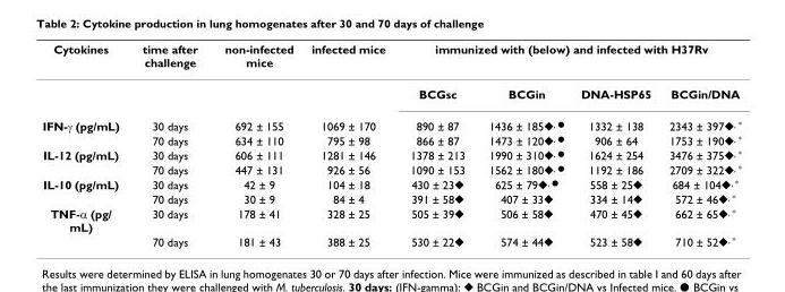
<table><thead><tr><td rowspan="2">Cytokines</td><td rowspan="2">time after challenge</td><td rowspan="2">non-infected mice</td><td rowspan="2">infected mice</td><td colspan="4">immunized with (below) and infected with H37Rv</td></tr><tr><td>BCGsc</td><td>BCGin</td><td>DNA-HSP65</td><td>BCGin/DNA</td></tr></thead><tbody><tr><td rowspan="2">IFN-γ (pg/mL)</td><td>30 days</td><td>692 ± 155</td><td>1069 ± 170</td><td>890 ± 87</td><td>1436 ± 185<sup>◆, ●</sup></td><td>1332 ± 138</td><td>2343 ± 397<sup>◆, *</sup></td></tr><tr><td>70 days</td><td>634 ± 110</td><td>795 ± 98</td><td>866 ± 87</td><td>1473 ± 120<sup>◆, ●</sup></td><td>906 ± 64</td><td>1753 ± 190<sup>◆, *</sup></td></tr><tr><td rowspan="2">IL-12 (pg/mL)</td><td>30 days</td><td>606 ± 111</td><td>1281 ± 146</td><td>1378 ± 213</td><td>1990 ± 310<sup>◆, ●</sup></td><td>1624 ± 254</td><td>3476 ± 375<sup>◆, *</sup></td></tr><tr><td>70 days</td><td>447 ± 131</td><td>926 ± 56</td><td>1090 ± 153</td><td>1562 ± 180<sup>◆, ●</sup></td><td>1192 ± 186</td><td>2709 ± 322<sup>◆, *</sup></td></tr><tr><td rowspan="2">IL-10 (pg/mL)</td><td>30 days</td><td>42 ± 9</td><td>104 ± 18</td><td>430 ± 23<sup>◆</sup></td><td>625 ± 79<sup>◆, ●</sup></td><td>558 ± 25<sup>◆</sup></td><td>684 ± 104<sup>◆, *</sup></td></tr><tr><td>70 days</td><td>30 ± 9</td><td>84 ± 4</td><td>391 ± 58<sup>◆</sup></td><td>407 ± 33<sup>◆</sup></td><td>334 ± 14<sup>◆</sup></td><td>572 ± 46<sup>◆, *</sup></td></tr><tr><td rowspan="2">TNF-α (pg/ mL)</td><td>30 days</td><td>178 ± 41</td><td>328 ± 25</td><td>505 ± 39<sup>◆</sup></td><td>506 ± 58<sup>◆</sup></td><td>470 ± 45<sup>◆</sup></td><td>662 ± 65<sup>◆, *</sup></td></tr><tr><td>70 days</td><td>181 ± 43</td><td>388 ± 25</td><td>530 ± 22<sup>◆</sup></td><td>574 ± 44<sup>◆</sup></td><td>523 ± 58<sup>◆</sup></td><td>710 ± 52<sup>◆, *</sup></td></tr></tbody></table>